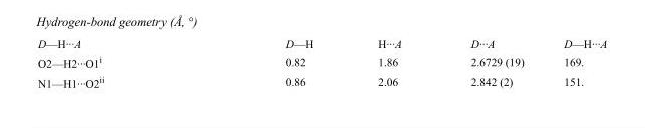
<table><tbody><tr><td>D—H···A</td><td>D—H</td><td>H···A</td><td>D···A</td><td>D—H···A</td></tr><tr><td>O2—H2···O1<sup>i</sup></td><td>0.82</td><td>1.86</td><td>2.6729 (19)</td><td>169.</td></tr><tr><td>N1—H1···O2<sup>ii</sup></td><td>0.86</td><td>2.06</td><td>2.842 (2)</td><td>151.</td></tr></tbody></table>